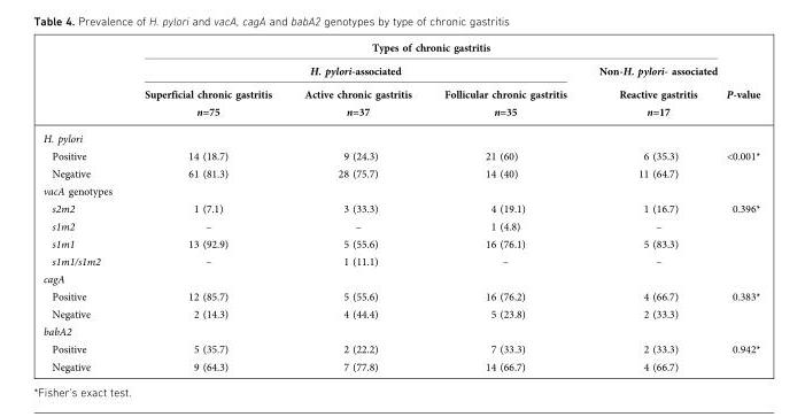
<table><thead><tr><td rowspan="4"></td><td colspan="4">Types of chronic gastritis</td><td rowspan="4">P-value</td></tr><tr><td colspan="3">H. pylori-associated</td><td rowspan="3">Non-H. pylori- associated Reactive gastritis n=17</td></tr><tr><td rowspan="2">Superficial chronic gastritis n=75</td><td rowspan="2">Active chronic gastritis n=37</td><td rowspan="2">Follicular chronic gastritis n=35</td></tr><tr></tr></thead><tbody><tr><td colspan="6">H. pylori</td></tr><tr><td>Positive</td><td>14 (18.7)</td><td>9 (24.3)</td><td>21 (60)</td><td>6 (35.3)</td><td rowspan="2">&lt;0.001*</td></tr><tr><td>Negative</td><td>61 (81.3)</td><td>28 (75.7)</td><td>14 (40)</td><td>11 (64.7)</td></tr><tr><td colspan="6">vacA genotypes</td></tr><tr><td>s2m2</td><td>1 (7.1)</td><td>3 (33.3)</td><td>4 (19.1)</td><td>1 (16.7)</td><td rowspan="4">0.396*</td></tr><tr><td>s1m2</td><td>–</td><td>–</td><td>1 (4.8)</td><td>–</td></tr><tr><td>s1m1</td><td>13 (92.9)</td><td>5 (55.6)</td><td>16 (76.1)</td><td>5 (83.3)</td></tr><tr><td>s1m1/s1m2</td><td>–</td><td>1 (11.1)</td><td>–</td><td>–</td></tr><tr><td colspan="6">cagA</td></tr><tr><td>Positive</td><td>12 (85.7)</td><td>5 (55.6)</td><td>16 (76.2)</td><td>4 (66.7)</td><td rowspan="2">0.383*</td></tr><tr><td>Negative</td><td>2 (14.3)</td><td>4 (44.4)</td><td>5 (23.8)</td><td>2 (33.3)</td></tr><tr><td colspan="6">babA2</td></tr><tr><td>Positive</td><td>5 (35.7)</td><td>2 (22.2)</td><td>7 (33.3)</td><td>2 (33.3)</td><td rowspan="2">0.942*</td></tr><tr><td>Negative</td><td>9 (64.3)</td><td>7 (77.8)</td><td>14 (66.7)</td><td>4 (66.7)</td></tr></tbody></table>